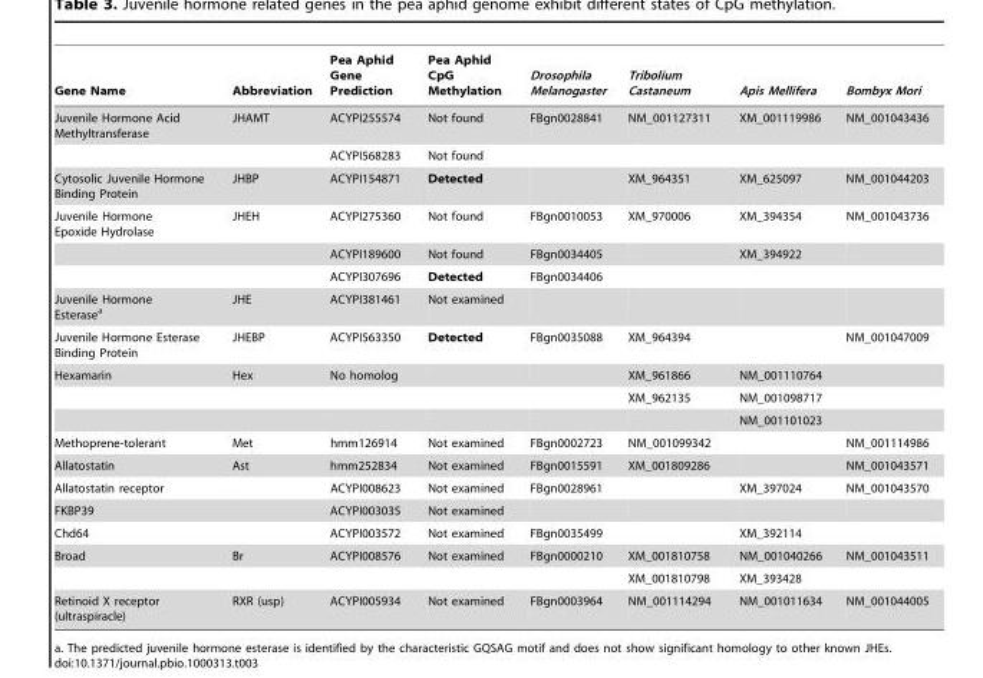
<table><thead><tr><td>Gene Name</td><td>Abbreviation</td><td>Pea Aphid Gene Prediction</td><td>Pea Aphid CpG Methylation</td><td>Drosophila Melanogaster</td><td>Tribolium Castaneum</td><td>Apis Mellifera</td><td>Bombyx Mori</td></tr></thead><tbody><tr><td rowspan="2">Juvenile Hormone Acid Methyltransferase</td><td>JHAMT</td><td>ACYPI255574</td><td>Not found</td><td>FBgn0028841</td><td>NM_001127311</td><td>XM_001119986</td><td>NM_001043436</td></tr><tr><td></td><td>ACYPI568283</td><td>Not found</td><td></td><td></td><td></td><td></td></tr><tr><td>Cytosolic Juvenile Hormone Binding Protein</td><td>JHBP</td><td>ACYPI154871</td><td>Detected</td><td></td><td>XM_964351</td><td>XM_625097</td><td>NM_001044203</td></tr><tr><td rowspan="3">Juvenile Hormone Epoxide Hydrolase</td><td>JHEH</td><td>ACYPI275360</td><td>Not found</td><td>FBgn0010053</td><td>XM_970006</td><td>XM_394354</td><td>NM_001043736</td></tr><tr><td></td><td>ACYPI189600</td><td>Not found</td><td>FBgn0034405</td><td></td><td>XM_394922</td><td></td></tr><tr><td></td><td>ACYPI307696</td><td>Detected</td><td>FBgn0034406</td><td></td><td></td><td></td></tr><tr><td>Juvenile Hormone Esterase<sup>a</sup></td><td>JHE</td><td>ACYPI381461</td><td>Not examined</td><td></td><td></td><td></td><td></td></tr><tr><td>Juvenile Hormone Esterase Binding Protein</td><td>JHEBP</td><td>ACYPI563350</td><td>Detected</td><td>FBgn0035088</td><td>XM_964394</td><td></td><td>NM_001047009</td></tr><tr><td rowspan="3">Hexamarin</td><td>Hex</td><td>No homolog</td><td></td><td></td><td>XM_961866</td><td colspan="2">NM_001110764</td></tr><tr><td></td><td></td><td></td><td></td><td>XM_962135</td><td colspan="2">NM_001098717</td></tr><tr><td></td><td></td><td></td><td></td><td></td><td colspan="2">NM_001101023</td></tr><tr><td>Methoprene-tolerant</td><td>Met</td><td>hmm126914</td><td>Not examined</td><td>FBgn0002723</td><td>NM_001099342</td><td></td><td>NM_001114986</td></tr><tr><td>Allatostatin</td><td>Ast</td><td>hmm252834</td><td>Not examined</td><td>FBgn0015591</td><td>XM_001809286</td><td></td><td>NM_001043571</td></tr><tr><td>Allatostatin receptor</td><td></td><td>ACYPI008623</td><td>Not examined</td><td>FBgn0028961</td><td></td><td>XM_397024</td><td>NM_001043570</td></tr><tr><td>FKBP39</td><td></td><td>ACYPI003035</td><td>Not examined</td><td></td><td></td><td></td><td></td></tr><tr><td>Chd64</td><td></td><td>ACYPI003572</td><td>Not examined</td><td>FBgn0035499</td><td></td><td>XM_392114</td><td></td></tr><tr><td rowspan="2">Broad</td><td>Br</td><td>ACYPI008576</td><td>Not examined</td><td>FBgn0000210</td><td>XM_001810758</td><td>NM_001040266</td><td>NM_001043511</td></tr><tr><td></td><td></td><td></td><td></td><td>XM_001810798</td><td>XM_393428</td><td></td></tr><tr><td>Retinoid X receptor (ultraspiracle)</td><td>RXR (usp)</td><td>ACYPI005934</td><td>Not examined</td><td>FBgn0003964</td><td>NM_001114294</td><td>NM_001011634</td><td>NM_001044005</td></tr></tbody></table>